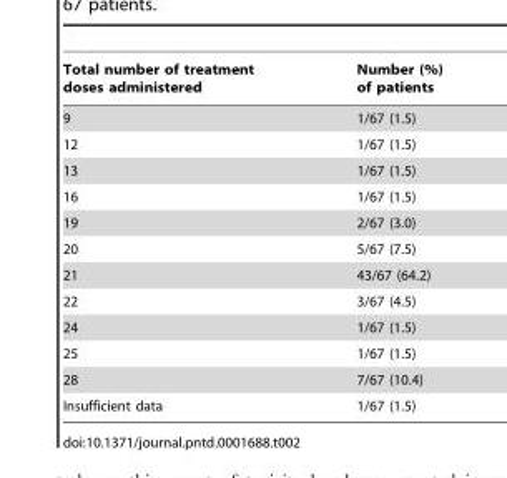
<table><thead><tr><td>Total number of treatment doses administered</td><td>Number (%) of patients</td></tr></thead><tbody><tr><td>9</td><td>1/67 (1.5)</td></tr><tr><td>12</td><td>1/67 (1.5)</td></tr><tr><td>13</td><td>1/67 (1.5)</td></tr><tr><td>16</td><td>1/67 (1.5)</td></tr><tr><td>19</td><td>2/67 (3.0)</td></tr><tr><td>20</td><td>5/67 (7.5)</td></tr><tr><td>21</td><td>43/67 (64.2)</td></tr><tr><td>22</td><td>3/67 (4.5)</td></tr><tr><td>24</td><td>1/67 (1.5)</td></tr><tr><td>25</td><td>1/67 (1.5)</td></tr><tr><td>28</td><td>7/67 (10.4)</td></tr><tr><td>Insufficient data</td><td>1/67 (1.5)</td></tr></tbody></table>